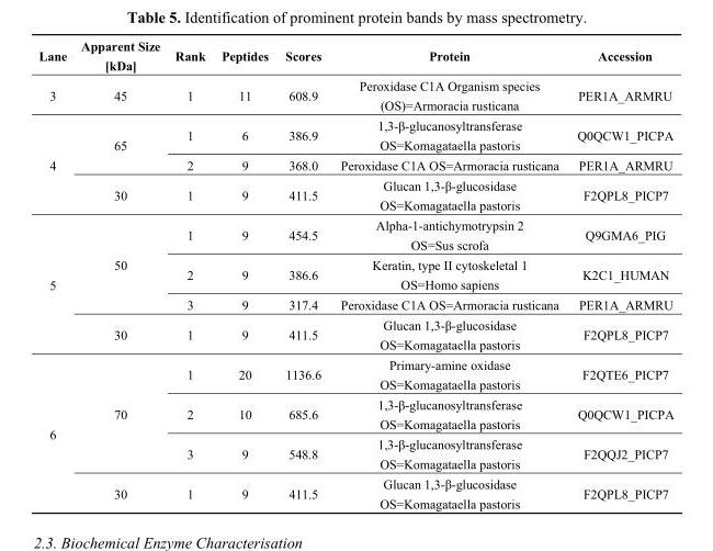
<table><thead><tr><td>Lane</td><td>Apparent Size [kDa]</td><td>Rank</td><td>Peptides</td><td>Scores</td><td>Protein</td><td>Accession</td></tr></thead><tbody><tr><td>3</td><td>45</td><td>1</td><td>11</td><td>608.9</td><td>Peroxidase C1A Organism species (OS)=Armoracia rusticana</td><td>PER1A_ARMRU</td></tr><tr><td rowspan="3">4</td><td rowspan="2">65</td><td>1</td><td>6</td><td>386.9</td><td>1,3-β-glucanosyltransferase OS=Komagataella pastoris</td><td>Q0QCW1_PICPA</td></tr><tr><td>2</td><td>9</td><td>368.0</td><td>Peroxidase C1A OS=Armoracia rusticana</td><td>PER1A_ARMRU</td></tr><tr><td>30</td><td>1</td><td>9</td><td>411.5</td><td>Glucan 1,3-β-glucosidase OS=Komagataella pastoris</td><td>F2QPL8_PICP7</td></tr><tr><td rowspan="4">5</td><td rowspan="3">50</td><td>1</td><td>9</td><td>454.5</td><td>Alpha-1-antichymotrypsin 2 OS=Sus scrofa</td><td>Q9GMA6_PIG</td></tr><tr><td>2</td><td>9</td><td>386.6</td><td>Keratin, type II cytoskeletal 1 OS=Homo sapiens</td><td>K2C1_HUMAN</td></tr><tr><td>3</td><td>9</td><td>317.4</td><td>Peroxidase C1A OS=Armoracia rusticana</td><td>PER1A_ARMRU</td></tr><tr><td>30</td><td>1</td><td>9</td><td>411.5</td><td>Glucan 1,3-β-glucosidase OS=Komagataella pastoris</td><td>F2QPL8_PICP7</td></tr><tr><td rowspan="4">6</td><td rowspan="3">70</td><td>1</td><td>20</td><td>1136.6</td><td>Primary-amine oxidase OS=Komagataella pastoris</td><td>F2QTE6_PICP7</td></tr><tr><td>2</td><td>10</td><td>685.6</td><td>1,3-β-glucanosyltransferase OS=Komagataella pastoris</td><td>Q0QCW1_PICPA</td></tr><tr><td>3</td><td>9</td><td>548.8</td><td>1,3-β-glucanosyltransferase OS=Komagataella pastoris</td><td>F2QQJ2_PICP7</td></tr><tr><td>30</td><td>1</td><td>9</td><td>411.5</td><td>Glucan 1,3-β-glucosidase OS=Komagataella pastoris</td><td>F2QPL8_PICP7</td></tr></tbody></table>